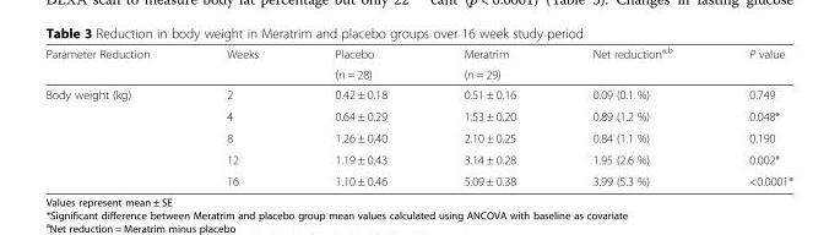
<table><thead><tr><td rowspan="2">Parameter Reduction</td><td rowspan="2">Weeks</td><td rowspan="2">Placebo (n = 28)</td><td rowspan="2">Meratrim (n = 29)</td><td rowspan="2">Net reduction<sup>a,b</sup></td><td rowspan="2">P value</td></tr><tr></tr></thead><tbody><tr><td rowspan="5">Body weight (kg)</td><td>2</td><td>0.42 ± 0.18</td><td>0.51 ± 0.16</td><td>0.09 (0.1 %)</td><td>0.749</td></tr><tr><td>4</td><td>0.64 ± 0.29</td><td>1.53 ± 0.20</td><td>0.89 (1.2 %)</td><td>0.048*</td></tr><tr><td>8</td><td>1.26 ± 0.40</td><td>2.10 ± 0.25</td><td>0.84 (1.1 %)</td><td>0.190</td></tr><tr><td>12</td><td>1.19 ± 0.43</td><td>3.14 ± 0.28</td><td>1.95 (2.6 %)</td><td>0.002*</td></tr><tr><td>16</td><td>1.10 ± 0.46</td><td>5.09 ± 0.38</td><td>3.99 (5.3 %)</td><td>&lt;0.0001*</td></tr></tbody></table>